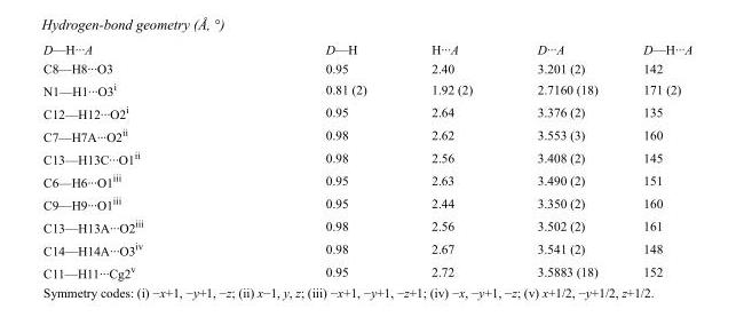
<table><tbody><tr><td>D—H···A</td><td>D—H</td><td>H···A</td><td>D···A</td><td>D—H···A</td></tr><tr><td>C8—H8···O3</td><td>0.95</td><td>2.40</td><td>3.201 (2)</td><td>142</td></tr><tr><td>N1—H1···O3<sup>i</sup></td><td>0.81 (2)</td><td>1.92 (2)</td><td>2.7160 (18)</td><td>171 (2)</td></tr><tr><td>C12—H12···O2<sup>i</sup></td><td>0.95</td><td>2.64</td><td>3.376 (2)</td><td>135</td></tr><tr><td>C7—H7A···O2<sup>ii</sup></td><td>0.98</td><td>2.62</td><td>3.553 (3)</td><td>160</td></tr><tr><td>C13—H13C···O1<sup>ii</sup></td><td>0.98</td><td>2.56</td><td>3.408 (2)</td><td>145</td></tr><tr><td>C6—H6···O1<sup>iii</sup></td><td>0.95</td><td>2.63</td><td>3.490 (2)</td><td>151</td></tr><tr><td>C9—H9···O1<sup>iii</sup></td><td>0.95</td><td>2.44</td><td>3.350 (2)</td><td>160</td></tr><tr><td>C13—H13A···O2<sup>iii</sup></td><td>0.98</td><td>2.56</td><td>3.502 (2)</td><td>161</td></tr><tr><td>C14—H14A···O3<sup>iv</sup></td><td>0.98</td><td>2.67</td><td>3.541 (2)</td><td>148</td></tr><tr><td>C11—H11···Cg2<sup>v</sup></td><td>0.95</td><td>2.72</td><td>3.5883 (18)</td><td>152</td></tr></tbody></table>